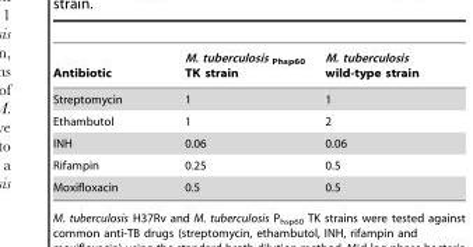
<table><thead><tr><td>Antibiotic</td><td>M. tuberculosis <sub>Phsp60</sub> TK strain</td><td>M. tuberculosis wild-type strain</td></tr></thead><tbody><tr><td>Streptomycin</td><td>1</td><td>1</td></tr><tr><td>Ethambutol</td><td>1</td><td>2</td></tr><tr><td>INH</td><td>0.06</td><td>0.06</td></tr><tr><td>Rifampin</td><td>0.25</td><td>0.5</td></tr><tr><td>Moxifloxacin</td><td>0.5</td><td>0.5</td></tr></tbody></table>